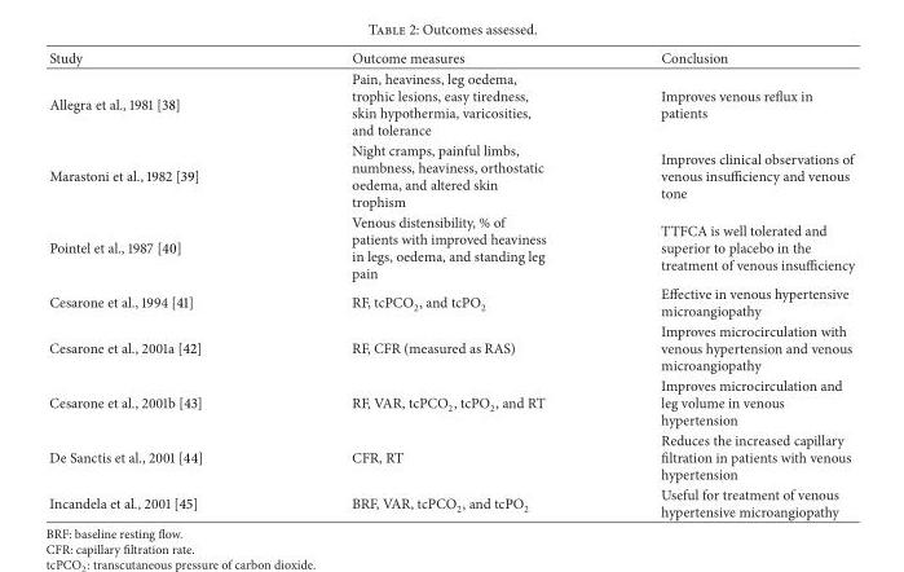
<table><thead><tr><td>Study</td><td>Outcome measures</td><td>Conclusion</td></tr></thead><tbody><tr><td>Allegra et al., 1981 [38]</td><td>Pain, heaviness, leg oedema, trophic lesions, easy tiredness, skin hypothermia, varicosities, and tolerance</td><td>Improves venous reflux in patients</td></tr><tr><td>Marastoni et al., 1982 [39]</td><td>Night cramps, painful limbs, numbness, heaviness, orthostatic oedema, and altered skin trophism</td><td>Improves clinical observations of venous insufficiency and venous tone</td></tr><tr><td>Pointel et al., 1987 [40]</td><td>Venous distensibility, % of patients with improved heaviness in legs, oedema, and standing leg pain</td><td>TTFCA is well tolerated and superior to placebo in the treatment of venous insufficiency</td></tr><tr><td>Cesarone et al., 1994 [41]</td><td>RF, tcPCO<sub>2</sub>, and tcPO<sub>2</sub></td><td>Effective in venous hypertensive microangiopathy</td></tr><tr><td>Cesarone et al., 2001a [42]</td><td>RF, CFR (measured as RAS)</td><td>Improves microcirculation with venous hypertension and venous microangiopathy</td></tr><tr><td>Cesarone et al., 2001b [43]</td><td>RF, VAR, tcPCO<sub>2</sub>, tcPO<sub>2</sub>, and RT</td><td>Improves microcirculation and leg volume in venous hypertension</td></tr><tr><td>De Sanctis et al., 2001 [44]</td><td>CFR, RT</td><td>Reduces the increased capillary filtration in patients with venous hypertension</td></tr><tr><td>Incandela et al., 2001 [45]</td><td>BRF, VAR, tcPCO<sub>2</sub>, and tcPO<sub>2</sub></td><td>Useful for treatment of venous hypertensive microangiopathy</td></tr></tbody></table>